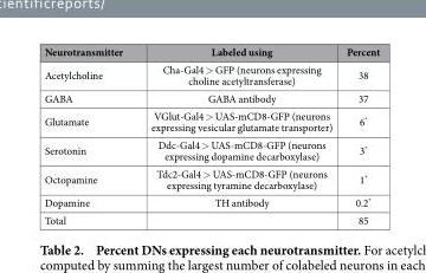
<table><thead><tr><td>Neurotransmitter</td><td>Labeled using</td><td>Percent</td></tr></thead><tbody><tr><td>Acetylcholine</td><td>Cha-Gal4 &gt; GFP (neurons expressing choline acetyltransferase)</td><td>38</td></tr><tr><td>GABA</td><td>GABA antibody</td><td>37</td></tr><tr><td>Glutamate</td><td>VGlut-Gal4 &gt; UAS-mCD8-GFP (neurons expressing vesicular glutamate transporter)</td><td>6*</td></tr><tr><td>Serotonin</td><td>Ddc-Gal4 &gt; UAS-mCD8-GFP (neurons expressing dopamine decarboxylase)</td><td>3*</td></tr><tr><td>Octopamine</td><td>Tdc2-Gal4 &gt; UAS-mCD8-GFP (neurons expressing tyramine decarboxylase)</td><td>1*</td></tr><tr><td>Dopamine</td><td>TH antibody</td><td>0.2*</td></tr><tr><td>Total</td><td></td><td>85</td></tr></tbody></table>